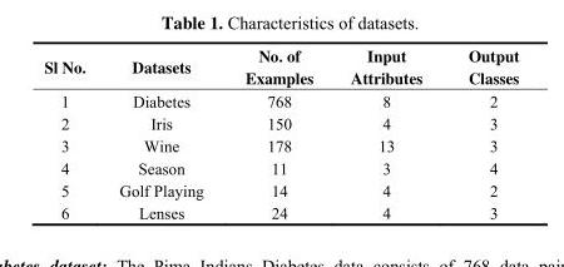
<table><thead><tr><td>Sl No.</td><td>Datasets</td><td>No. of Examples</td><td>Input Attributes</td><td>Output Classes</td></tr></thead><tbody><tr><td>1</td><td>Diabetes</td><td>768</td><td>8</td><td>2</td></tr><tr><td>2</td><td>Iris</td><td>150</td><td>4</td><td>3</td></tr><tr><td>3</td><td>Wine</td><td>178</td><td>13</td><td>3</td></tr><tr><td>4</td><td>Season</td><td>11</td><td>3</td><td>4</td></tr><tr><td>5</td><td>Golf Playing</td><td>14</td><td>4</td><td>2</td></tr><tr><td>6</td><td>Lenses</td><td>24</td><td>4</td><td>3</td></tr></tbody></table>